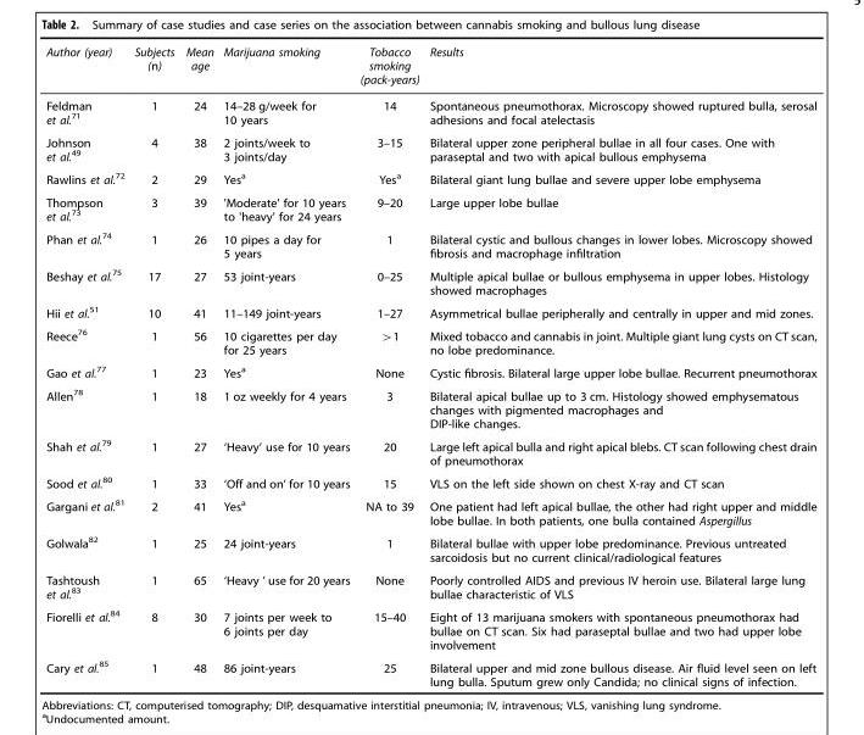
<table><thead><tr><td>Author (year)</td><td>Subjects (n)</td><td>Mean age</td><td>Marijuana smoking</td><td>Tobacco smoking (pack-years)</td><td>Results</td></tr></thead><tbody><tr><td>Feldman et al.<sup>71</sup></td><td>1</td><td>24</td><td>14–28 g/week for 10 years</td><td>14</td><td>Spontaneous pneumothorax. Microscopy showed ruptured bulla, serosal adhesions and focal atelectasis</td></tr><tr><td>Johnson et al.<sup>49</sup></td><td>4</td><td>38</td><td>2 joints/week to 3 joints/day</td><td>3–15</td><td>Bilateral upper zone peripheral bullae in all four cases. One with paraseptal and two with apical bullous emphysema</td></tr><tr><td>Rawlins et al.<sup>72</sup></td><td>2</td><td>29</td><td>Yes<sup>a</sup></td><td>Yes<sup>a</sup></td><td>Bilateral giant lung bullae and severe upper lobe emphysema</td></tr><tr><td>Thompson et al.<sup>73</sup></td><td>3</td><td>39</td><td>&#x27;Moderate&#x27; for 10 years to &#x27;heavy&#x27; for 24 years</td><td>9–20</td><td>Large upper lobe bullae</td></tr><tr><td>Phan et al.<sup>74</sup></td><td>1</td><td>26</td><td>10 pipes a day for 5 years</td><td>1</td><td>Bilateral cystic and bullous changes in lower lobes. Microscopy showed fibrosis and macrophage infiltration</td></tr><tr><td>Beshay et al.<sup>75</sup></td><td>17</td><td>27</td><td>53 joint-years</td><td>0–25</td><td>Multiple apical bullae or bullous emphysema in upper lobes. Histology showed macrophages</td></tr><tr><td>Hii et al.<sup>51</sup></td><td>10</td><td>41</td><td>11–149 joint-years</td><td>1–27</td><td>Asymmetrical bullae peripherally and centrally in upper and mid zones.</td></tr><tr><td>Reece<sup>76</sup></td><td>1</td><td>56</td><td>10 cigarettes per day for 25 years</td><td>&gt;1</td><td>Mixed tobacco and cannabis in joint. Multiple giant lung cysts on CT scan, no lobe predominance.</td></tr><tr><td>Gao et al.<sup>77</sup></td><td>1</td><td>23</td><td>Yes<sup>a</sup></td><td>None</td><td>Cystic fibrosis. Bilateral large upper lobe bullae. Recurrent pneumothorax</td></tr><tr><td>Allen<sup>78</sup></td><td>1</td><td>18</td><td>1 oz weekly for 4 years</td><td>3</td><td>Bilateral apical bullae up to 3 cm. Histology showed emphysematous changes with pigmented macrophages and DIP-like changes.</td></tr><tr><td>Shah et al.<sup>79</sup></td><td>1</td><td>27</td><td>‘Heavy’ use for 10 years</td><td>20</td><td>Large left apical bulla and right apical blebs. CT scan following chest drain of pneumothorax</td></tr><tr><td>Sood et al.<sup>80</sup></td><td>1</td><td>33</td><td>‘Off and on’ for 10 years</td><td>15</td><td>VLS on the left side shown on chest X-ray and CT scan</td></tr><tr><td>Gargani et al.<sup>81</sup></td><td>2</td><td>41</td><td>Yes<sup>a</sup></td><td>NA to 39</td><td>One patient had left apical bullae, the other had right upper and middle lobe bullae. In both patients, one bulla contained Aspergillus</td></tr><tr><td>Golwala<sup>82</sup></td><td>1</td><td>25</td><td>24 joint-years</td><td>1</td><td>Bilateral bullae with upper lobe predominance. Previous untreated sarcoidosis but no current clinical/radiological features</td></tr><tr><td>Tashtoush et al.<sup>83</sup></td><td>1</td><td>65</td><td>‘Heavy ’ use for 20 years</td><td>None</td><td>Poorly controlled AIDS and previous IV heroin use. Bilateral large lung bullae characteristic of VLS</td></tr><tr><td>Fiorelli et al.<sup>84</sup></td><td>8</td><td>30</td><td>7 joints per week to 6 joints per day</td><td>15–40</td><td>Eight of 13 marijuana smokers with spontaneous pneumothorax had bullae on CT scan. Six had paraseptal bullae and two had upper lobe involvement</td></tr><tr><td>Cary et al.<sup>85</sup></td><td>1</td><td>48</td><td>86 joint-years</td><td>25</td><td>Bilateral upper and mid zone bullous disease. Air fluid level seen on left lung bulla. Sputum grew only Candida; no clinical signs of infection.</td></tr></tbody></table>